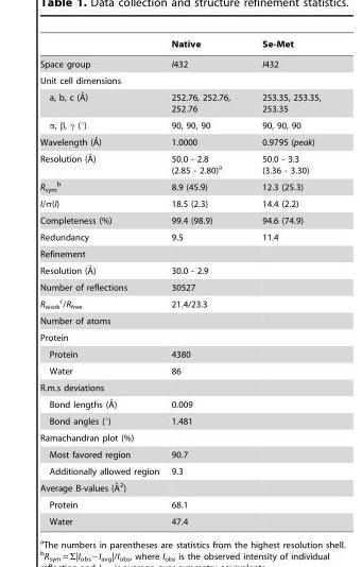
<table><thead><tr><td></td><td>Native</td><td>Se-Met</td></tr></thead><tbody><tr><td>Space group</td><td>I432</td><td>I432</td></tr><tr><td colspan="3">Unit cell dimensions</td></tr><tr><td>a, b, c (A˚)</td><td>252.76, 252.76, 252.76</td><td>253.35, 253.35, 253.35</td></tr><tr><td>α, β, γ (°)</td><td>90, 90, 90</td><td>90, 90, 90</td></tr><tr><td>Wavelength (A˚)</td><td>1.0000</td><td>0.9795 (peak)</td></tr><tr><td>Resolution (A˚)</td><td>50.0 - 2.8 (2.85 - 2.80)<sup>a</sup></td><td>50.0 - 3.3 (3.36 - 3.30)</td></tr><tr><td>R<sub>sym</sub> b</td><td>8.9 (45.9)</td><td>12.3 (25.3)</td></tr><tr><td>I/σ(I)</td><td>18.5 (2.3)</td><td>14.4 (2.2)</td></tr><tr><td>Completeness (%)</td><td>99.4 (98.9)</td><td>94.6 (74.9)</td></tr><tr><td>Redundancy</td><td>9.5</td><td>11.4</td></tr><tr><td colspan="3">Refinement</td></tr><tr><td>Resolution (A˚)</td><td>30.0 - 2.9</td><td></td></tr><tr><td>Number of reflections</td><td>30527</td><td></td></tr><tr><td>R<sub>work</sub> c/R<sub>free</sub></td><td>21.4/23.3</td><td></td></tr><tr><td colspan="3">Number of atoms</td></tr><tr><td colspan="3">Protein</td></tr><tr><td>Protein</td><td>4380</td><td></td></tr><tr><td>Water</td><td>86</td><td></td></tr><tr><td colspan="3">R.m.s deviations</td></tr><tr><td>Bond lengths (A˚)</td><td>0.009</td><td></td></tr><tr><td>Bond angles (°)</td><td>1.481</td><td></td></tr><tr><td colspan="3">Ramachandran plot (%)</td></tr><tr><td>Most favored region</td><td>90.7</td><td></td></tr><tr><td>Additionally allowed region</td><td>9.3</td><td></td></tr><tr><td colspan="3">Average B-values (A˚ 2)</td></tr><tr><td>Protein</td><td>68.1</td><td></td></tr><tr><td>Water</td><td>47.4</td><td></td></tr></tbody></table>